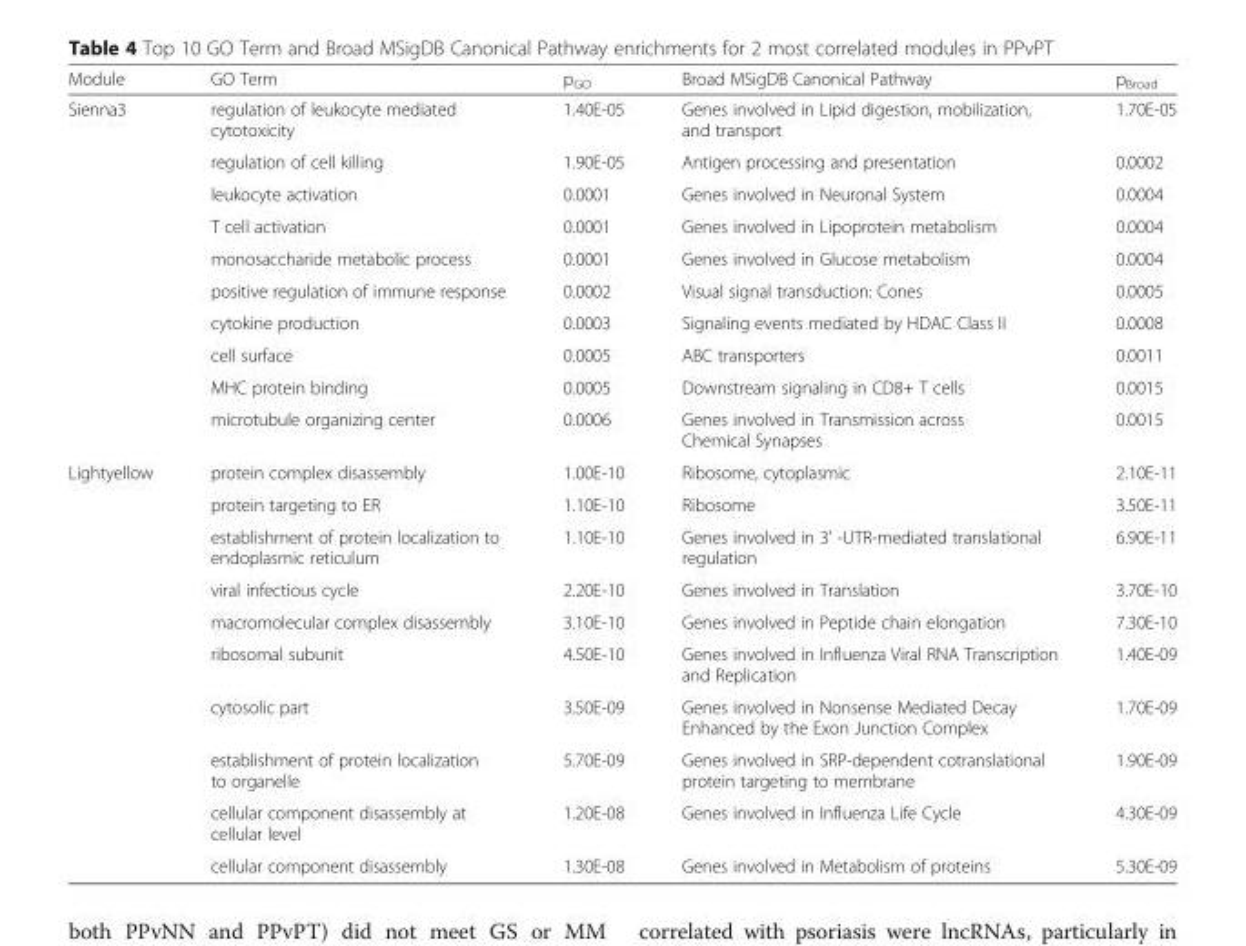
<table><thead><tr><td>Module</td><td>GO Term</td><td>p<sub>GO</sub></td><td>Broad MSigDB Canonical Pathway</td><td>p<sub>Broad</sub></td></tr></thead><tbody><tr><td rowspan="10">Sienna3</td><td>regulation of leukocyte mediated cytotoxicity</td><td>1.40E-05</td><td>Genes involved in Lipid digestion, mobilization, and transport</td><td>1.70E-05</td></tr><tr><td>regulation of cell killing</td><td>1.90E-05</td><td>Antigen processing and presentation</td><td>0.0002</td></tr><tr><td>leukocyte activation</td><td>0.0001</td><td>Genes involved in Neuronal System</td><td>0.0004</td></tr><tr><td>T cell activation</td><td>0.0001</td><td>Genes involved in Lipoprotein metabolism</td><td>0.0004</td></tr><tr><td>monosaccharide metabolic process</td><td>0.0001</td><td>Genes involved in Glucose metabolism</td><td>0.0004</td></tr><tr><td>positive regulation of immune response</td><td>0.0002</td><td>Visual signal transduction: Cones</td><td>0.0005</td></tr><tr><td>cytokine production</td><td>0.0003</td><td>Signaling events mediated by HDAC Class II</td><td>0.0008</td></tr><tr><td>cell surface</td><td>0.0005</td><td>ABC transporters</td><td>0.0011</td></tr><tr><td>MHC protein binding</td><td>0.0005</td><td>Downstream signaling in CD8+ T cells</td><td>0.0015</td></tr><tr><td>microtubule organizing center</td><td>0.0006</td><td>Genes involved in Transmission across Chemical Synapses</td><td>0.0015</td></tr><tr><td rowspan="10">Lightyellow</td><td>protein complex disassembly</td><td>1.00E-10</td><td>Ribosome, cytoplasmic</td><td>2.10E-11</td></tr><tr><td>protein targeting to ER</td><td>1.10E-10</td><td>Ribosome</td><td>3.50E-11</td></tr><tr><td>establishment of protein localization to endoplasmic reticulum</td><td>1.10E-10</td><td>Genes involved in 3&#x27; -UTR-mediated translational regulation</td><td>6.90E-11</td></tr><tr><td>viral infectious cycle</td><td>2.20E-10</td><td>Genes involved in Translation</td><td>3.70E-10</td></tr><tr><td>macromolecular complex disassembly</td><td>3.10E-10</td><td>Genes involved in Peptide chain elongation</td><td>7.30E-10</td></tr><tr><td>ribosomal subunit</td><td>4.50E-10</td><td>Genes involved in Influenza Viral RNA Transcription and Replication</td><td>1.40E-09</td></tr><tr><td>cytosolic part</td><td>3.50E-09</td><td>Genes involved in Nonsense Mediated Decay Enhanced by the Exon Junction Complex</td><td>1.70E-09</td></tr><tr><td>establishment of protein localization to organelle</td><td>5.70E-09</td><td>Genes involved in SRP-dependent cotranslational protein targeting to membrane</td><td>1.90E-09</td></tr><tr><td>cellular component disassembly at cellular level</td><td>1.20E-08</td><td>Genes involved in Influenza Life Cycle</td><td>4.30E-09</td></tr><tr><td>cellular component disassembly</td><td>1.30E-08</td><td>Genes involved in Metabolism of proteins</td><td>5.30E-09</td></tr></tbody></table>